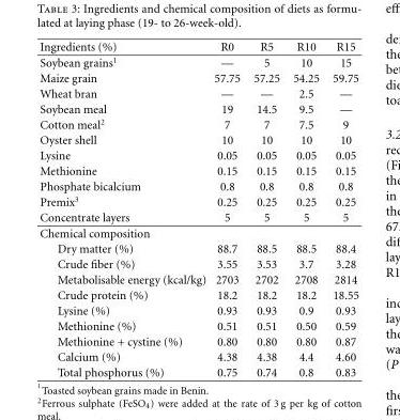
<table><thead><tr><td>Ingredients (%)</td><td>R0</td><td>R5</td><td>R10</td><td>R15</td></tr></thead><tbody><tr><td>Soybean grains<sup>1</sup></td><td>—</td><td>5</td><td>10</td><td>15</td></tr><tr><td>Maize grain</td><td>57.75</td><td>57.25</td><td>54.25</td><td>59.75</td></tr><tr><td>Wheat bran</td><td>—</td><td>—</td><td>2.5</td><td>—</td></tr><tr><td>Soybean meal</td><td>19</td><td>14.5</td><td>9.5</td><td>—</td></tr><tr><td>Cotton meal<sup>2</sup></td><td>7</td><td>7</td><td>7.5</td><td>9</td></tr><tr><td>Oyster shell</td><td>10</td><td>10</td><td>10</td><td>10</td></tr><tr><td>Lysine</td><td>0.05</td><td>0.05</td><td>0.05</td><td>0.05</td></tr><tr><td>Methionine</td><td>0.15</td><td>0.15</td><td>0.15</td><td>0.15</td></tr><tr><td>Phosphate bicalcium</td><td>0.8</td><td>0.8</td><td>0.8</td><td>0.8</td></tr><tr><td>Premix<sup>3</sup></td><td>0.25</td><td>0.25</td><td>0.25</td><td>0.25</td></tr><tr><td>Concentrate layers</td><td>5</td><td>5</td><td>5</td><td>5</td></tr><tr><td colspan="5">Chemical composition</td></tr><tr><td>Dry matter (%)</td><td>88.7</td><td>88.5</td><td>88.5</td><td>88.4</td></tr><tr><td>Crude fiber (%)</td><td>3.55</td><td>3.53</td><td>3.7</td><td>3.28</td></tr><tr><td>Metabolisable energy (kcal/kg)</td><td>2703</td><td>2702</td><td>2708</td><td>2814</td></tr><tr><td>Crude protein (%)</td><td>18.2</td><td>18.2</td><td>18.2</td><td>18.55</td></tr><tr><td>Lysine (%)</td><td>0.93</td><td>0.93</td><td>0.9</td><td>0.93</td></tr><tr><td>Methionine (%)</td><td>0.51</td><td>0.51</td><td>0.50</td><td>0.59</td></tr><tr><td>Methionine + cystine (%)</td><td>0.80</td><td>0.80</td><td>0.80</td><td>0.87</td></tr><tr><td>Calcium (%)</td><td>4.38</td><td>4.38</td><td>4.4</td><td>4.60</td></tr><tr><td>Total phosphorus (%)</td><td>0.75</td><td>0.74</td><td>0.8</td><td>0.83</td></tr></tbody></table>